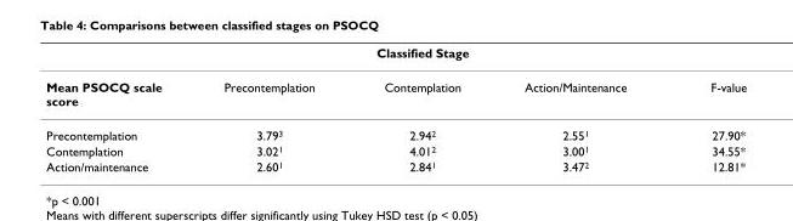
<table><thead><tr><td colspan="5">Classified Stage</td></tr><tr><td>Mean PSOCQ scale score</td><td>Precontemplation</td><td>Contemplation</td><td>Action/Maintenance</td><td>F-value</td></tr></thead><tbody><tr><td>Precontemplation</td><td>3.793</td><td>2.942</td><td>2.551</td><td>27.90*</td></tr><tr><td>Contemplation</td><td>3.021</td><td>4.012</td><td>3.001</td><td>34.55*</td></tr><tr><td>Action/maintenance</td><td>2.601</td><td>2.841</td><td>3.472</td><td>12.81*</td></tr></tbody></table>